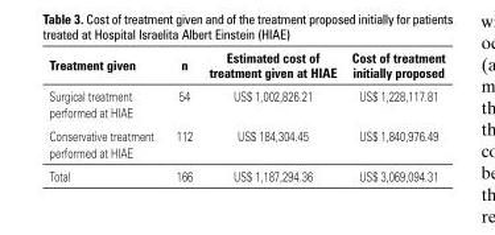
<table><thead><tr><td>treatment given</td><td>n</td><td>estimated cost of treatment given at Hiae</td><td>cost of treatment initially proposed</td></tr></thead><tbody><tr><td>Surgical treatment performed at HIAE</td><td>54</td><td>US$ 1,002,826.21</td><td>US$ 1,228,117.81</td></tr><tr><td>Conservative treatment performed at HIAE</td><td>112</td><td>US$ 184,304.45</td><td>US$ 1,840,976.49</td></tr><tr><td>Total</td><td>166</td><td>US$ 1,187,294.36</td><td>US$ 3,069,094.31</td></tr></tbody></table>